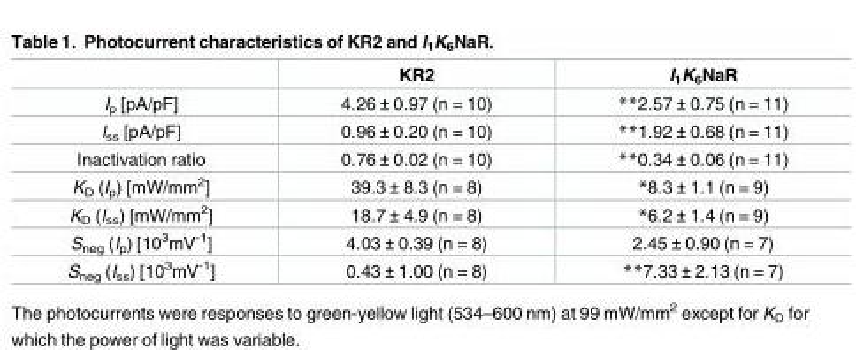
<table><thead><tr><td></td><td>KR2</td><td>I<sub>1</sub>K<sub>6</sub>NaR</td></tr></thead><tbody><tr><td>I<sub>p</sub> [pA/pF]</td><td>4.26 ± 0.97 (n = 10)</td><td>**2.57 ± 0.75 (n = 11)</td></tr><tr><td>I<sub>ss</sub> [pA/pF]</td><td>0.96 ± 0.20 (n = 10)</td><td>**1.92 ± 0.68 (n = 11)</td></tr><tr><td>Inactivation ratio</td><td>0.76 ± 0.02 (n = 10)</td><td>**0.34 ± 0.06 (n = 11)</td></tr><tr><td>K<sub>D</sub> (I<sub>p</sub>) [mW/mm<sup>2</sup>]</td><td>39.3 ± 8.3 (n = 8)</td><td>*8.3 ± 1.1 (n = 9)</td></tr><tr><td>K<sub>D</sub> (I<sub>ss</sub>) [mW/mm<sup>2</sup>]</td><td>18.7 ± 4.9 (n = 8)</td><td>*6.2 ± 1.4 (n = 9)</td></tr><tr><td>S<sub>neg</sub> (I<sub>p</sub>) [10<sup>3</sup>mV<sup>-1</sup>]</td><td>4.03 ± 0.39 (n = 8)</td><td>2.45 ± 0.90 (n = 7)</td></tr><tr><td>S<sub>neg</sub> (I<sub>ss</sub>) [10<sup>3</sup>mV<sup>-1</sup>]</td><td>0.43 ± 1.00 (n = 8)</td><td>**7.33 ± 2.13 (n = 7)</td></tr></tbody></table>